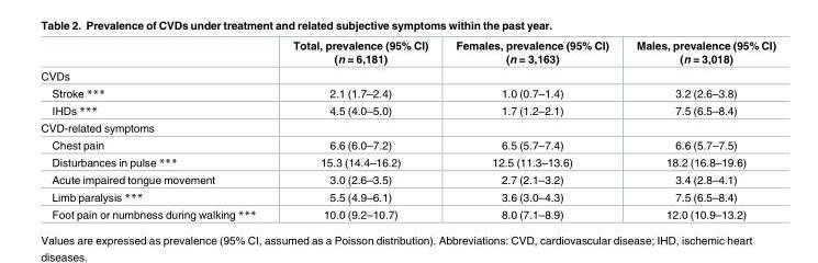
<table><thead><tr><td></td><td>Total, prevalence (95% CI) (n = 6,181)</td><td>Females, prevalence (95% CI) (n = 3,163)</td><td>Males, prevalence (95% CI) (n = 3,018)</td></tr></thead><tbody><tr><td colspan="4">CVDs</td></tr><tr><td>Stroke ***</td><td>2.1 (1.7–2.4)</td><td>1.0 (0.7–1.4)</td><td>3.2 (2.6–3.8)</td></tr><tr><td>IHDs ***</td><td>4.5 (4.0–5.0)</td><td>1.7 (1.2–2.1)</td><td>7.5 (6.5–8.4)</td></tr><tr><td colspan="4">CVD-related symptoms</td></tr><tr><td>Chest pain</td><td>6.6 (6.0–7.2)</td><td>6.5 (5.7–7.4)</td><td>6.6 (5.7–7.5)</td></tr><tr><td>Disturbances in pulse ***</td><td>15.3 (14.4–16.2)</td><td>12.5 (11.3–13.6)</td><td>18.2 (16.8–19.6)</td></tr><tr><td>Acute impaired tongue movement</td><td>3.0 (2.6–3.5)</td><td>2.7 (2.1–3.2)</td><td>3.4 (2.8–4.1)</td></tr><tr><td>Limb paralysis ***</td><td>5.5 (4.9–6.1)</td><td>3.6 (3.0–4.3)</td><td>7.5 (6.5–8.4)</td></tr><tr><td>Foot pain or numbness during walking ***</td><td>10.0 (9.2–10.7)</td><td>8.0 (7.1–8.9)</td><td>12.0 (10.9–13.2)</td></tr></tbody></table>